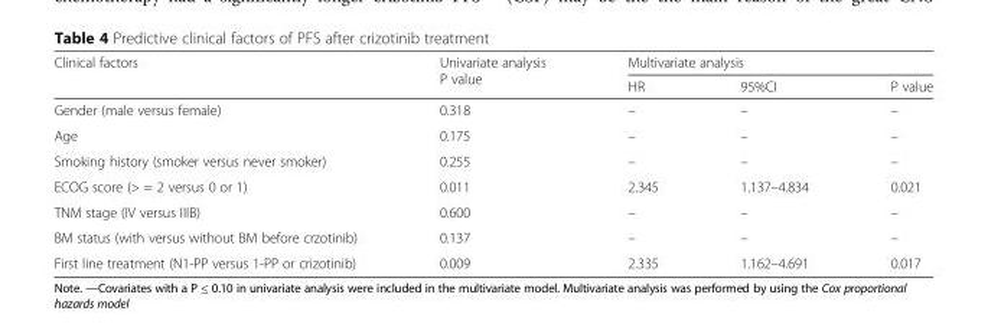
<table><thead><tr><td rowspan="2">Clinical factors</td><td rowspan="2">Univariate analysis P value</td><td colspan="3">Multivariate analysis</td></tr><tr><td>HR</td><td>95%CI</td><td>P value</td></tr></thead><tbody><tr><td>Gender (male versus female)</td><td>0.318</td><td>–</td><td>–</td><td>–</td></tr><tr><td>Age</td><td>0.175</td><td>–</td><td>–</td><td>–</td></tr><tr><td>Smoking history (smoker versus never smoker)</td><td>0.255</td><td>–</td><td>–</td><td>–</td></tr><tr><td>ECOG score (&gt; = 2 versus 0 or 1)</td><td>0.011</td><td>2.345</td><td>1.137–4.834</td><td>0.021</td></tr><tr><td>TNM stage (IV versus IIIB)</td><td>0.600</td><td>–</td><td>–</td><td>–</td></tr><tr><td>BM status (with versus without BM before crzotinib)</td><td>0.137</td><td>–</td><td>–</td><td>–</td></tr><tr><td>First line treatment (N1-PP versus 1-PP or crizotinib)</td><td>0.009</td><td>2.335</td><td>1.162–4.691</td><td>0.017</td></tr></tbody></table>